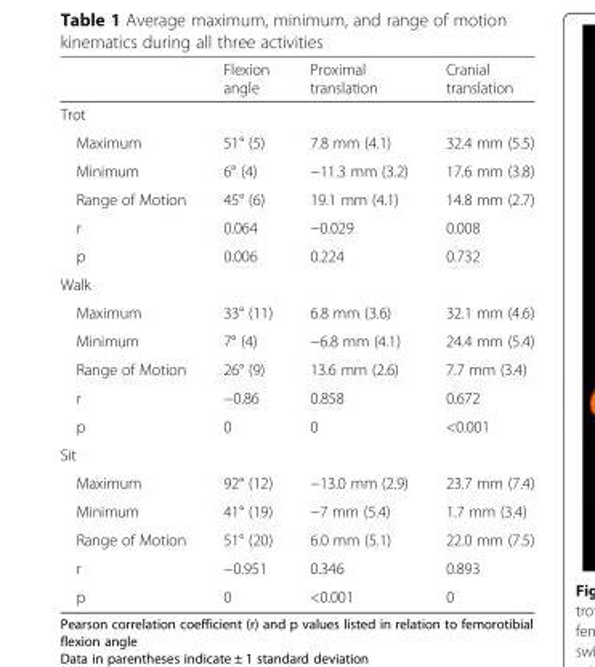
<table><thead><tr><td></td><td>Flexion angle</td><td>Proximal translation</td><td>Cranial translation</td></tr></thead><tbody><tr><td colspan="4">Trot</td></tr><tr><td>Maximum</td><td>51° (5)</td><td>7.8 mm (4.1)</td><td>32.4 mm (5.5)</td></tr><tr><td>Minimum</td><td>6° (4)</td><td>−11.3 mm (3.2)</td><td>17.6 mm (3.8)</td></tr><tr><td>Range of Motion</td><td>45° (6)</td><td>19.1 mm (4.1)</td><td>14.8 mm (2.7)</td></tr><tr><td>r</td><td>0.064</td><td>−0.029</td><td>0.008</td></tr><tr><td>p</td><td>0.006</td><td>0.224</td><td>0.732</td></tr><tr><td colspan="4">Walk</td></tr><tr><td>Maximum</td><td>33° (11)</td><td>6.8 mm (3.6)</td><td>32.1 mm (4.6)</td></tr><tr><td>Minimum</td><td>7° (4)</td><td>−6.8 mm (4.1)</td><td>24.4 mm (5.4)</td></tr><tr><td>Range of Motion</td><td>26° (9)</td><td>13.6 mm (2.6)</td><td>7.7 mm (3.4)</td></tr><tr><td>r</td><td>−0.86</td><td>0.858</td><td>0.672</td></tr><tr><td>p</td><td>0</td><td>0</td><td>&lt;0.001</td></tr><tr><td colspan="4">Sit</td></tr><tr><td>Maximum</td><td>92° (12)</td><td>−13.0 mm (2.9)</td><td>23.7 mm (7.4)</td></tr><tr><td>Minimum</td><td>41° (19)</td><td>−7 mm (5.4)</td><td>1.7 mm (3.4)</td></tr><tr><td>Range of Motion</td><td>51° (20)</td><td>6.0 mm (5.1)</td><td>22.0 mm (7.5)</td></tr><tr><td>r</td><td>−0.951</td><td>0.346</td><td>0.893</td></tr><tr><td>p</td><td>0</td><td>&lt;0.001</td><td>0</td></tr></tbody></table>